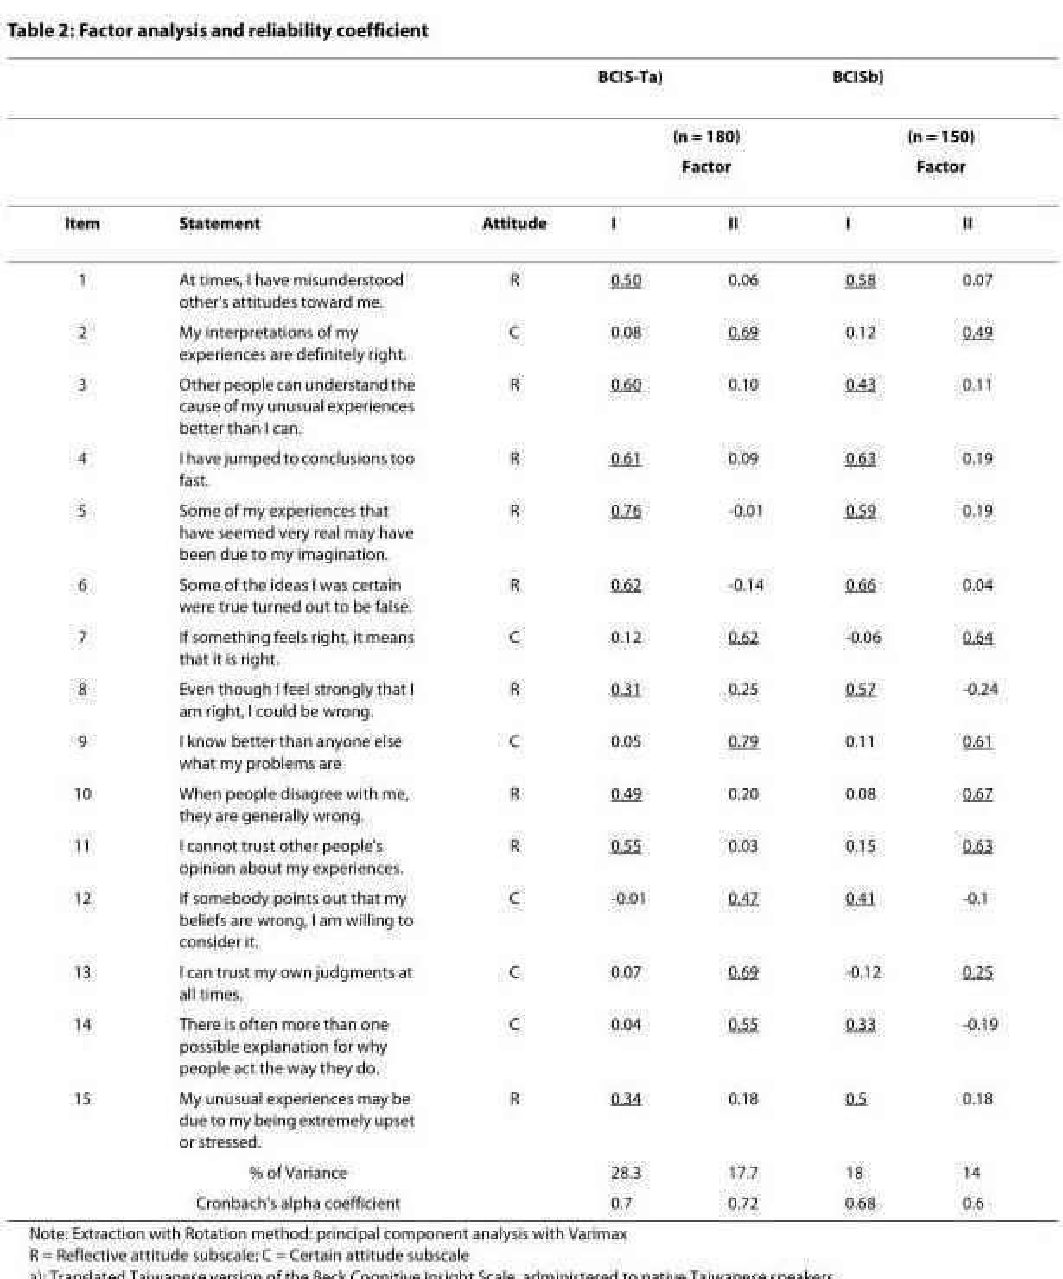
<table><thead><tr><td rowspan="4">Item</td><td rowspan="4">Statement</td><td rowspan="4">Attitude</td><td rowspan="3" colspan="2">BCIS-Ta) (n = 180) Factor</td><td rowspan="3" colspan="2">BCISb) (n = 150) Factor</td></tr><tr></tr><tr></tr><tr><td>I</td><td>II</td><td>I</td><td>II</td></tr></thead><tbody><tr><td>1</td><td>At times, I have misunderstood other&#x27;s attitudes toward me.</td><td>R</td><td>0.50</td><td>0.06</td><td>0.58</td><td>0.07</td></tr><tr><td>2</td><td>My interpretations of my experiences are definitely right.</td><td>C</td><td>0.08</td><td>0.69</td><td>0.12</td><td>0.49</td></tr><tr><td>3</td><td>Other people can understand the cause of my unusual experiences better than I can.</td><td>R</td><td>0.60</td><td>0.10</td><td>0.43</td><td>0.11</td></tr><tr><td>4</td><td>I have jumped to conclusions too fast.</td><td>R</td><td>0.61</td><td>0.09</td><td>0.63</td><td>0.19</td></tr><tr><td>5</td><td>Some of my experiences that have seemed very real may have been due to my imagination.</td><td>R</td><td>0.76</td><td>-0.01</td><td>0.59</td><td>0.19</td></tr><tr><td>6</td><td>Some of the ideas I was certain were true turned out to be false.</td><td>R</td><td>0.62</td><td>-0.14</td><td>0.66</td><td>0.04</td></tr><tr><td>7</td><td>If something feels right, it means that it is right.</td><td>C</td><td>0.12</td><td>0.62</td><td>-0.06</td><td>0.64</td></tr><tr><td>8</td><td>Even though I feel strongly that I am right, I could be wrong.</td><td>R</td><td>0.31</td><td>0.25</td><td>0.57</td><td>-0.24</td></tr><tr><td>9</td><td>I know better than anyone else what my problems are</td><td>C</td><td>0.05</td><td>0.79</td><td>0.11</td><td>0.61</td></tr><tr><td>10</td><td>When people disagree with me, they are generally wrong.</td><td>R</td><td>0.49</td><td>0.20</td><td>0.08</td><td>0.67</td></tr><tr><td>11</td><td>I cannot trust other people&#x27;s opinion about my experiences.</td><td>R</td><td>0.55</td><td>0.03</td><td>0.15</td><td>0.63</td></tr><tr><td>12</td><td>If somebody points out that my beliefs are wrong, I am willing to consider it.</td><td>C</td><td>-0.01</td><td>0.47</td><td>0.41</td><td>-0.1</td></tr><tr><td>13</td><td>I can trust my own judgments at all times.</td><td>C</td><td>0.07</td><td>0.69</td><td>-0.12</td><td>0.25</td></tr><tr><td>14</td><td>There is often more than one possible explanation for why people act the way they do.</td><td>C</td><td>0.04</td><td>0.55</td><td>0.33</td><td>-0.19</td></tr><tr><td rowspan="3">15</td><td>My unusual experiences may be due to my being extremely upset or stressed.</td><td>R</td><td>0.34</td><td>0.18</td><td>0.5</td><td>0.18</td></tr><tr><td>% of Variance</td><td></td><td>28.3</td><td>17.7</td><td>18</td><td>14</td></tr><tr><td>Cronbach&#x27;s alpha coefficient</td><td></td><td>0.7</td><td>0.72</td><td>0.68</td><td>0.6</td></tr></tbody></table>